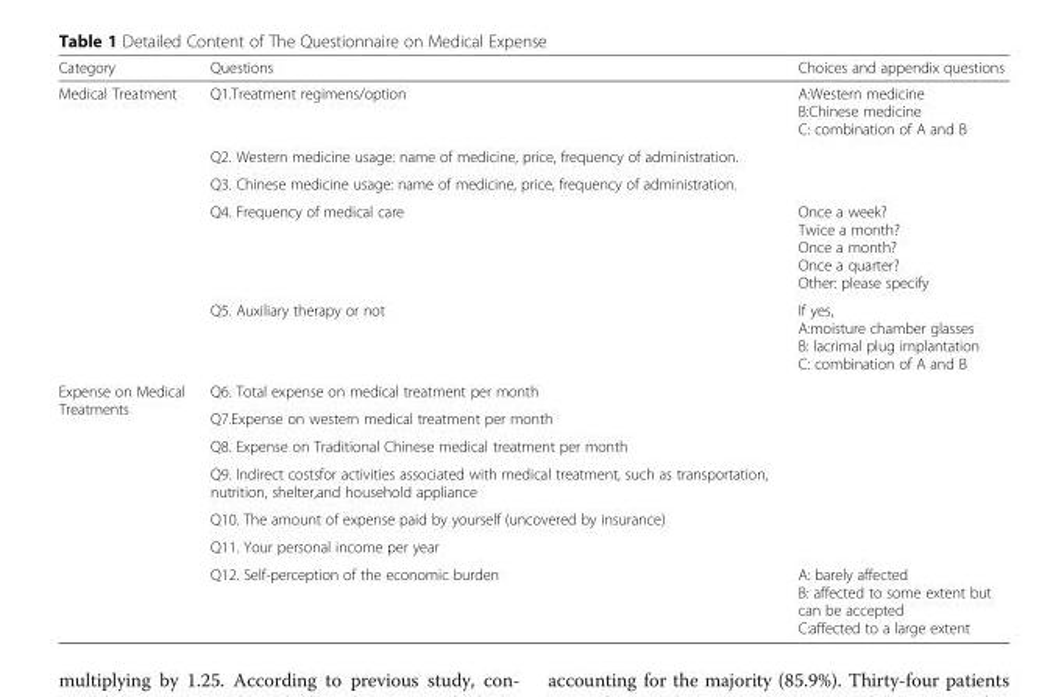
<table><thead><tr><td>Category</td><td>Questions</td><td>Choices and appendix questions</td></tr></thead><tbody><tr><td rowspan="5">Medical Treatment</td><td>Q1.Treatment regimens/option</td><td>A:Western medicine B:Chinese medicine C: combination of A and B</td></tr><tr><td>Q2. Western medicine usage: name of medicine, price, frequency of administration.</td><td></td></tr><tr><td>Q3. Chinese medicine usage: name of medicine, price, frequency of administration.</td><td></td></tr><tr><td>Q4. Frequency of medical care</td><td>Once a week? Twice a month? Once a month? Once a quarter? Other: please specify</td></tr><tr><td>Q5. Auxiliary therapy or not</td><td>If yes, A:moisture chamber glasses B: lacrimal plug implantation C: combination of A and B</td></tr><tr><td rowspan="7">Expense on Medical Treatments</td><td>Q6. Total expense on medical treatment per month</td><td></td></tr><tr><td>Q7.Expense on western medical treatment per month</td><td></td></tr><tr><td>Q8. Expense on Traditional Chinese medical treatment per month</td><td></td></tr><tr><td>Q9. Indirect costsfor activities associated with medical treatment, such as transportation, nutrition, shelter,and household appliance</td><td></td></tr><tr><td>Q10. The amount of expense paid by yourself (uncovered by insurance)</td><td></td></tr><tr><td>Q11. Your personal income per year</td><td></td></tr><tr><td>Q12. Self-perception of the economic burden</td><td>A: barely affected B: affected to some extent but can be accepted C:affected to a large extent</td></tr></tbody></table>